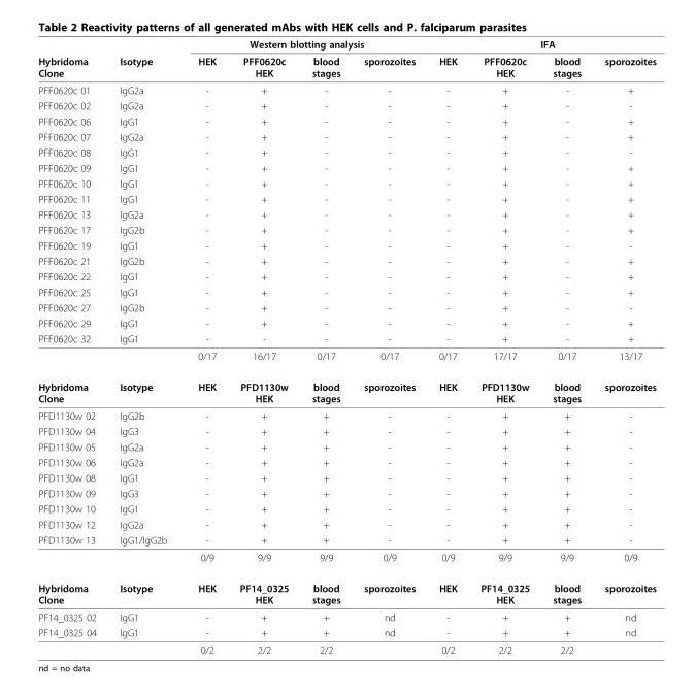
<table><thead><tr><td rowspan="2">Hybridoma Clone</td><td rowspan="2">Isotype</td><td colspan="4">Western blotting analysis</td><td colspan="4">IFA</td></tr><tr><td>HEK</td><td>PFF0620c HEK</td><td>blood stages</td><td>sporozoites</td><td>HEK</td><td>PFF0620c HEK</td><td>blood stages</td><td>sporozoites</td></tr></thead><tbody><tr><td>PFF0620c 01</td><td>IgG2a</td><td>-</td><td>+</td><td>-</td><td>-</td><td>-</td><td>+</td><td>-</td><td>+</td></tr><tr><td>PFF0620c 02</td><td>IgG2a</td><td>-</td><td>+</td><td>-</td><td>-</td><td>-</td><td>+</td><td>-</td><td>-</td></tr><tr><td>PFF0620c 06</td><td>IgG1</td><td>-</td><td>+</td><td>-</td><td>-</td><td>-</td><td>+</td><td>-</td><td>+</td></tr><tr><td>PFF0620c 07</td><td>IgG2a</td><td>-</td><td>+</td><td>-</td><td>-</td><td>-</td><td>+</td><td>-</td><td>+</td></tr><tr><td>PFF0620c 08</td><td>IgG1</td><td>-</td><td>+</td><td>-</td><td>-</td><td>-</td><td>+</td><td>-</td><td>-</td></tr><tr><td>PFF0620c 09</td><td>IgG1</td><td>-</td><td>+</td><td>-</td><td>-</td><td>-</td><td>+</td><td>-</td><td>+</td></tr><tr><td>PFF0620c 10</td><td>IgG1</td><td>-</td><td>+</td><td>-</td><td>-</td><td>-</td><td>+</td><td>-</td><td>+</td></tr><tr><td>PFF0620c 11</td><td>IgG1</td><td>-</td><td>+</td><td>-</td><td>-</td><td>-</td><td>+</td><td>-</td><td>+</td></tr><tr><td>PFF0620c 13</td><td>IgG2a</td><td>-</td><td>+</td><td>-</td><td>-</td><td>-</td><td>+</td><td>-</td><td>+</td></tr><tr><td>PFF0620c 17</td><td>IgG2b</td><td>-</td><td>+</td><td>-</td><td>-</td><td>-</td><td>+</td><td>-</td><td>+</td></tr><tr><td>PFF0620c 19</td><td>IgG1</td><td>-</td><td>+</td><td>-</td><td>-</td><td>-</td><td>+</td><td>-</td><td>-</td></tr><tr><td>PFF0620c 21</td><td>IgG2b</td><td>-</td><td>+</td><td>-</td><td>-</td><td>-</td><td>+</td><td>-</td><td>+</td></tr><tr><td>PFF0620c 22</td><td>IgG1</td><td>-</td><td>+</td><td>-</td><td>-</td><td>-</td><td>+</td><td>-</td><td>+</td></tr><tr><td>PFF0620c 25</td><td>IgG1</td><td>-</td><td>+</td><td>-</td><td>-</td><td>-</td><td>+</td><td>-</td><td>+</td></tr><tr><td>PFF0620c 27</td><td>IgG2b</td><td>-</td><td>+</td><td>-</td><td>-</td><td>-</td><td>+</td><td>-</td><td>-</td></tr><tr><td>PFF0620c 29</td><td>IgG1</td><td>-</td><td>+</td><td>-</td><td>-</td><td>-</td><td>+</td><td>-</td><td>+</td></tr><tr><td rowspan="2">PFF0620c 32</td><td>IgG1</td><td>-</td><td>-</td><td>-</td><td>-</td><td>-</td><td>+</td><td>-</td><td>+</td></tr><tr><td></td><td>0/17</td><td>16/17</td><td>0/17</td><td>0/17</td><td>0/17</td><td>17/17</td><td>0/17</td><td>13/17</td></tr><tr><td>Hybridoma Clone</td><td>Isotype</td><td>HEK</td><td>PFD1130w HEK</td><td>blood stages</td><td>sporozoites</td><td>HEK</td><td>PFD1130w HEK</td><td>blood stages</td><td>sporozoites</td></tr><tr><td>PFD1130w 02</td><td>IgG2b</td><td>-</td><td>+</td><td>+</td><td>-</td><td>-</td><td>+</td><td>+</td><td>-</td></tr><tr><td>PFD1130w 04</td><td>IgG3</td><td>-</td><td>+</td><td>+</td><td>-</td><td>-</td><td>+</td><td>+</td><td>-</td></tr><tr><td>PFD1130w 05</td><td>IgG2a</td><td>-</td><td>+</td><td>+</td><td>-</td><td>-</td><td>+</td><td>+</td><td>-</td></tr><tr><td>PFD1130w 06</td><td>IgG2a</td><td>-</td><td>+</td><td>+</td><td>-</td><td>-</td><td>+</td><td>+</td><td>-</td></tr><tr><td>PFD1130w 08</td><td>IgG1</td><td>-</td><td>+</td><td>+</td><td>-</td><td>-</td><td>+</td><td>+</td><td>-</td></tr><tr><td>PFD1130w 09</td><td>IgG3</td><td>-</td><td>+</td><td>+</td><td>-</td><td>-</td><td>+</td><td>+</td><td>-</td></tr><tr><td>PFD1130w 10</td><td>IgG1</td><td>-</td><td>+</td><td>+</td><td>-</td><td>-</td><td>+</td><td>+</td><td>-</td></tr><tr><td>PFD1130w 12</td><td>IgG2a</td><td>-</td><td>+</td><td>+</td><td>-</td><td>-</td><td>+</td><td>+</td><td>-</td></tr><tr><td rowspan="2">PFD1130w 13</td><td>IgG1/IgG2b</td><td>-</td><td>+</td><td>+</td><td>-</td><td>-</td><td>+</td><td>+</td><td>-</td></tr><tr><td></td><td>0/9</td><td>9/9</td><td>9/9</td><td>0/9</td><td>0/9</td><td>9/9</td><td>9/9</td><td>0/9</td></tr><tr><td>Hybridoma Clone</td><td>Isotype</td><td>HEK</td><td>PF14_0325 HEK</td><td>blood stages</td><td>sporozoites</td><td>HEK</td><td>PF14_0325 HEK</td><td>blood stages</td><td>sporozoites</td></tr><tr><td>PF14_0325 02</td><td>IgG1</td><td>-</td><td>+</td><td>+</td><td>nd</td><td>-</td><td>+</td><td>+</td><td>nd</td></tr><tr><td rowspan="2">PF14_0325 04</td><td>IgG1</td><td>-</td><td>+</td><td>+</td><td>nd</td><td>-</td><td>+</td><td>+</td><td>nd</td></tr><tr><td></td><td>0/2</td><td>2/2</td><td>2/2</td><td></td><td>0/2</td><td>2/2</td><td>2/2</td><td></td></tr></tbody></table>